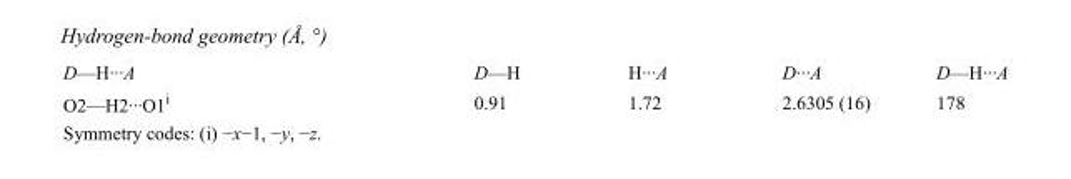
<table><tbody><tr><td>D—H···A</td><td>D—H</td><td>H···A</td><td>D···A</td><td>D—H···A</td></tr><tr><td>O2—H2···O1<sup>i</sup></td><td>0.91</td><td>1.72</td><td>2.6305 (16)</td><td>178</td></tr></tbody></table>